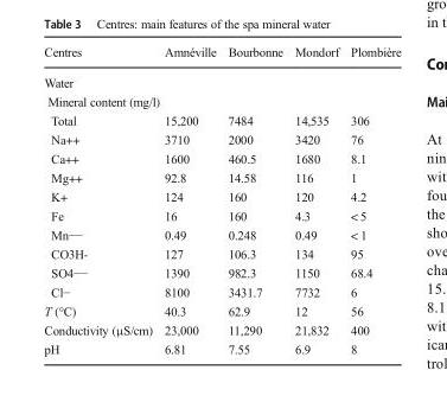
<table><thead><tr><td>Centres</td><td>Amnéville</td><td>Bourbonne</td><td>Mondorf</td><td>Plombière</td></tr></thead><tbody><tr><td colspan="5">Water</td></tr><tr><td colspan="5">Mineral content (mg/l)</td></tr><tr><td>Total</td><td>15,200</td><td>7484</td><td>14,535</td><td>306</td></tr><tr><td>Na++</td><td>3710</td><td>2000</td><td>3420</td><td>76</td></tr><tr><td>Ca++</td><td>1600</td><td>460.5</td><td>1680</td><td>8.1</td></tr><tr><td>Mg++</td><td>92.8</td><td>14.58</td><td>116</td><td>1</td></tr><tr><td>K+</td><td>124</td><td>160</td><td>120</td><td>4.2</td></tr><tr><td>Fe</td><td>16</td><td>160</td><td>4.3</td><td>&lt; 5</td></tr><tr><td>Mn−−</td><td>0.49</td><td>0.248</td><td>0.49</td><td>&lt; 1</td></tr><tr><td>CO3H-</td><td>127</td><td>106.3</td><td>134</td><td>95</td></tr><tr><td>SO4−−</td><td>1390</td><td>982.3</td><td>1150</td><td>68.4</td></tr><tr><td>Cl−</td><td>8100</td><td>3431.7</td><td>7732</td><td>6</td></tr><tr><td>T (°C)</td><td>40.3</td><td>62.9</td><td>12</td><td>56</td></tr><tr><td>Conductivity (μS/cm)</td><td>23,000</td><td>11,290</td><td>21,832</td><td>400</td></tr><tr><td>pH</td><td>6.81</td><td>7.55</td><td>6.9</td><td>8</td></tr></tbody></table>